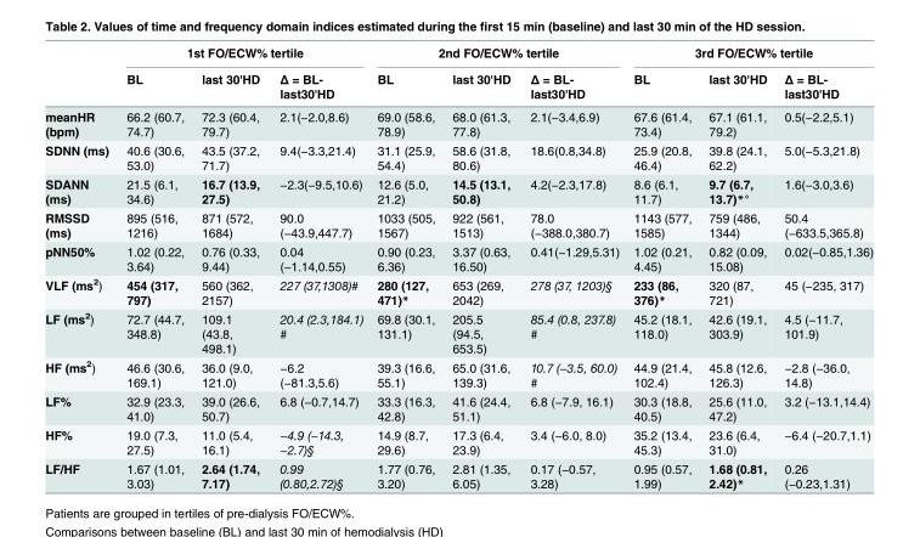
<table><thead><tr><td rowspan="2"></td><td colspan="3">1st FO/ECW% tertile</td><td colspan="3">2nd FO/ECW% tertile</td><td colspan="3">3rd FO/ECW% tertile</td></tr><tr><td>BL</td><td>last 30&#x27;HD</td><td>Δ = BL- last30&#x27;HD</td><td>BL</td><td>last 30&#x27;HD</td><td>Δ = BL- last30&#x27;HD</td><td>BL</td><td>last 30&#x27;HD</td><td>Δ = BL- last30&#x27;HD</td></tr></thead><tbody><tr><td>meanHR (bpm)</td><td>66.2 (60.7, 74.7)</td><td>72.3 (60.4, 79.7)</td><td>2.1(−2.0,8.6)</td><td>69.0 (58.6, 78.9)</td><td>68.0 (61.3, 77.8)</td><td>2.1(−3.4,6.9)</td><td>67.6 (61.4, 73.4)</td><td>67.1 (61.1, 79.2)</td><td>0.5(−2.2,5.1)</td></tr><tr><td>SDNN (ms)</td><td>40.6 (30.6, 53.0)</td><td>43.5 (37.2, 71.7)</td><td>9.4(−3.3,21.4)</td><td>31.1 (25.9, 54.4)</td><td>58.6 (31.8, 80.6)</td><td>18.6(0.8,34.8)</td><td>25.9 (20.8, 46.4)</td><td>39.8 (24.1, 62.2)</td><td>5.0(−5.3,21.8)</td></tr><tr><td>SDANN (ms)</td><td>21.5 (6.1, 34.6)</td><td>16.7 (13.9, 27.5)</td><td>−2.3(−9.5,10.6)</td><td>12.6 (5.0, 21.2)</td><td>14.5 (13.1, 50.8)</td><td>4.2(−2.3,17.8)</td><td>8.6 (6.1, 11.7)</td><td>9.7 (6.7, 13.7)*°</td><td>1.6(−3.0,3.6)</td></tr><tr><td>RMSSD (ms)</td><td>895 (516, 1216)</td><td>871 (572, 1684)</td><td>90.0 (−43.9,447.7)</td><td>1033 (505, 1567)</td><td>922 (561, 1513)</td><td>78.0 (−388.0,380.7)</td><td>1143 (577, 1585)</td><td>759 (486, 1344)</td><td>50.4 (−633.5,365.8)</td></tr><tr><td>pNN50%</td><td>1.02 (0.22, 3.64)</td><td>0.76 (0.33, 9.44)</td><td>0.04 (−1.14,0.55)</td><td>0.90 (0.23, 6.36)</td><td>3.37 (0.63, 16.50)</td><td>0.41(−1.29,5.31)</td><td>1.02 (0.21, 4.45)</td><td>0.82 (0.09, 15.08)</td><td>0.02(−0.85,1.36)</td></tr><tr><td>VLF (ms<sup>2</sup>)</td><td>454 (317, 797)</td><td>560 (362, 2157)</td><td>227 (37,1308)#</td><td>280 (127, 471)*</td><td>653 (269, 2042)</td><td>278 (37, 1203)§</td><td>233 (86, 376)*</td><td>320 (87, 721)</td><td>45 (−235, 317)</td></tr><tr><td>LF (ms<sup>2</sup>)</td><td>72.7 (44.7, 348.8)</td><td>109.1 (43.8, 498.1)</td><td>20.4 (2.3,184.1) #</td><td>69.8 (30.1, 131.1)</td><td>205.5 (94.5, 653.5)</td><td>85.4 (0.8, 237.8) #</td><td>45.2 (18.1, 118.0)</td><td>42.6 (19.1, 303.9)</td><td>4.5 (−11.7, 101.9)</td></tr><tr><td>HF (ms<sup>2</sup>)</td><td>46.6 (30.6, 169.1)</td><td>36.0 (9.0, 121.0)</td><td>−6.2 (−81.3,5.6)</td><td>39.3 (16.6, 55.1)</td><td>65.0 (31.6, 139.3)</td><td>10.7 (−3.5, 60.0) #</td><td>44.9 (21.4, 102.4)</td><td>45.8 (12.6, 126.3)</td><td>−2.8 (−36.0, 14.8)</td></tr><tr><td>LF%</td><td>32.9 (23.3, 41.0)</td><td>39.0 (26.6, 50.7)</td><td>6.8 (−0.7,14.7)</td><td>33.3 (16.3, 42.8)</td><td>41.6 (24.4, 51.1)</td><td>6.8 (−7.9, 16.1)</td><td>30.3 (18.8, 40.5)</td><td>25.6 (11.0, 47.2)</td><td>3.2 (−13.1,14.4)</td></tr><tr><td>HF%</td><td>19.0 (7.3, 27.5)</td><td>11.0 (5.4, 16.1)</td><td>−4.9 (−14.3, −2.7)§</td><td>14.9 (8.7, 29.6)</td><td>17.3 (6.4, 23.9)</td><td>3.4 (−6.0, 8.0)</td><td>35.2 (13.4, 45.3)</td><td>23.6 (6.4, 31.0)</td><td>−6.4 (−20.7,1.1)</td></tr><tr><td>LF/HF</td><td>1.67 (1.01, 3.03)</td><td>2.64 (1.74, 7.17)</td><td>0.99 (0.80,2.72)§</td><td>1.77 (0.76, 3.20)</td><td>2.81 (1.35, 6.05)</td><td>0.17 (−0.57, 3.28)</td><td>0.95 (0.57, 1.99)</td><td>1.68 (0.81, 2.42)*</td><td>0.26 (−0.23,1.31)</td></tr></tbody></table>